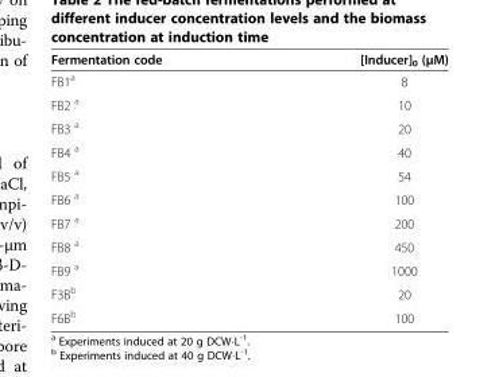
<table><thead><tr><td>Fermentation code</td><td>[Inducer]<sub>0</sub> (μM)</td></tr></thead><tbody><tr><td>FB1<sup>a</sup></td><td>8</td></tr><tr><td>FB2 <sup>a</sup></td><td>10</td></tr><tr><td>FB3 <sup>a</sup></td><td>20</td></tr><tr><td>FB4 <sup>a</sup></td><td>40</td></tr><tr><td>FB5 <sup>a</sup></td><td>54</td></tr><tr><td>FB6 <sup>a</sup></td><td>100</td></tr><tr><td>FB7 <sup>a</sup></td><td>200</td></tr><tr><td>FB8 <sup>a</sup></td><td>450</td></tr><tr><td>FB9 <sup>a</sup></td><td>1000</td></tr><tr><td>F3B<sup>b</sup></td><td>20</td></tr><tr><td>F6B<sup>b</sup></td><td>100</td></tr></tbody></table>